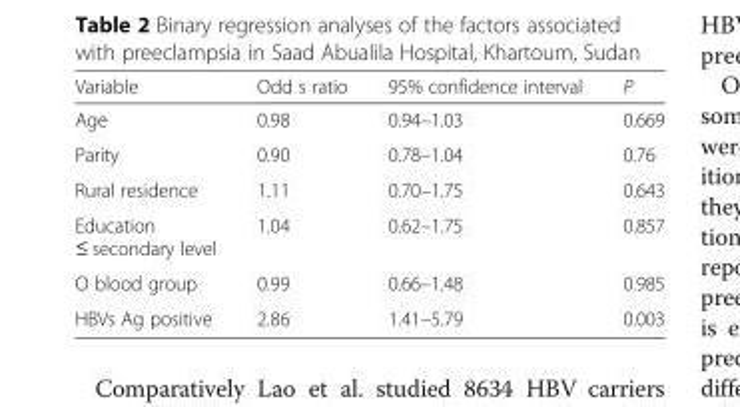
<table><thead><tr><td>Variable</td><td>Odd s ratio</td><td>95% confidence interval</td><td>P</td></tr></thead><tbody><tr><td>Age</td><td>0.98</td><td>0.94–1.03</td><td>0.669</td></tr><tr><td>Parity</td><td>0.90</td><td>0.78–1.04</td><td>0.76</td></tr><tr><td>Rural residence</td><td>1.11</td><td>0.70–1.75</td><td>0.643</td></tr><tr><td>Education ≤ secondary level</td><td>1.04</td><td>0.62–1.75</td><td>0.857</td></tr><tr><td>O blood group</td><td>0.99</td><td>0.66–1.48</td><td>0.985</td></tr><tr><td>HBVs Ag positive</td><td>2.86</td><td>1.41–5.79</td><td>0.003</td></tr></tbody></table>